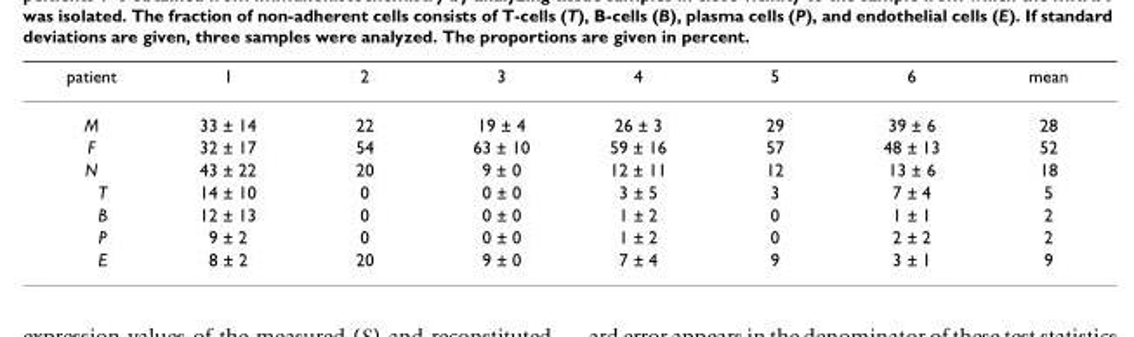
<table><thead><tr><td>patient</td><td>1</td><td>2</td><td>3</td><td>4</td><td>5</td><td>6</td><td>mean</td></tr></thead><tbody><tr><td>M</td><td>33 ± 14</td><td>22</td><td>19 ± 4</td><td>26 ± 3</td><td>29</td><td>39 ± 6</td><td>28</td></tr><tr><td>F</td><td>32 ± 17</td><td>54</td><td>63 ± 10</td><td>59 ± 16</td><td>57</td><td>48 ± 13</td><td>52</td></tr><tr><td>N</td><td>43 ± 22</td><td>20</td><td>9 ± 0</td><td>12 ± 11</td><td>12</td><td>13 ± 6</td><td>18</td></tr><tr><td>T</td><td>14 ± 10</td><td>0</td><td>0 ± 0</td><td>3 ± 5</td><td>3</td><td>7 ± 4</td><td>5</td></tr><tr><td>B</td><td>12 ± 13</td><td>0</td><td>0 ± 0</td><td>1 ± 2</td><td>0</td><td>1 ± 1</td><td>2</td></tr><tr><td>P</td><td>9 ± 2</td><td>0</td><td>0 ± 0</td><td>1 ± 2</td><td>0</td><td>2 ± 2</td><td>2</td></tr><tr><td>E</td><td>8 ± 2</td><td>20</td><td>9 ± 0</td><td>7 ± 4</td><td>9</td><td>3 ± 1</td><td>9</td></tr></tbody></table>